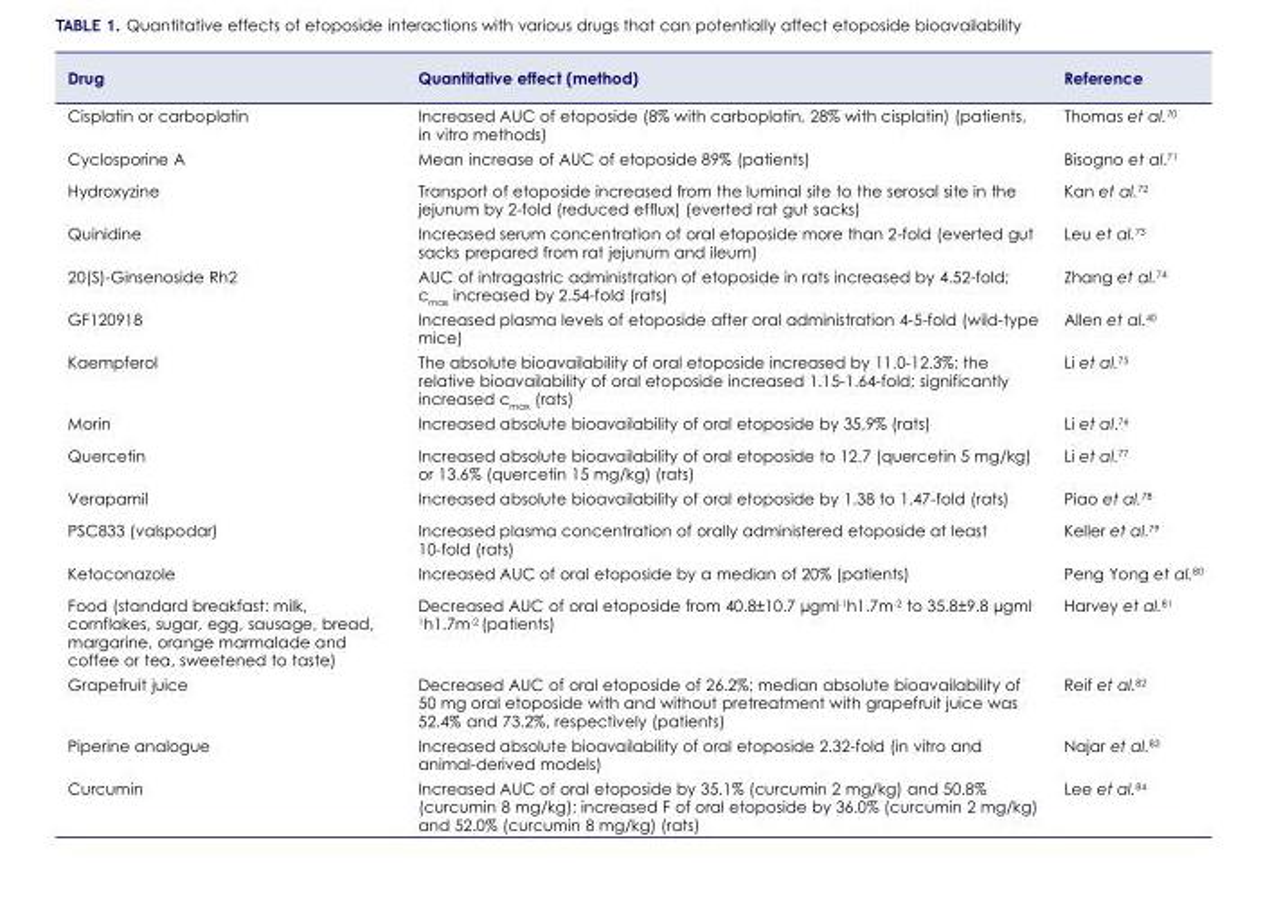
<table><thead><tr><td>Drug</td><td>Quantitative effect (method)</td><td>Reference</td></tr></thead><tbody><tr><td>Cisplatin or carboplatin</td><td>Increased AUC of etoposide (8% with carboplatin, 28% with cisplatin) (patients, in vitro methods)</td><td>Thomas et al.<sup>70</sup></td></tr><tr><td>Cyclosporine A</td><td>Mean increase of AUC of etoposide 89% (patients)</td><td>Bisogno et al.<sup>71</sup></td></tr><tr><td>Hydroxyzine</td><td>Transport of etoposide increased from the luminal site to the serosal site in the jejunum by 2-fold (reduced efflux) (everted rat gut sacks)</td><td>Kan et al.<sup>72</sup></td></tr><tr><td>Quinidine</td><td>Increased serum concentration of oral etoposide more than 2-fold (everted gut sacks prepared from rat jejunum and ileum)</td><td>Leu et al.<sup>73</sup></td></tr><tr><td>20(S)-Ginsenoside Rh2</td><td>AUC of intragastric administration of etoposide in rats increased by 4.52-fold; c<sub>max</sub> increased by 2.54-fold (rats)</td><td>Zhang et al.<sup>74</sup></td></tr><tr><td>GF120918</td><td>Increased plasma levels of etoposide after oral administration 4-5-fold (wild-type mice)</td><td>Allen et al.<sup>40</sup></td></tr><tr><td>Kaempferol</td><td>The absolute bioavailability of oral etoposide increased by 11.0-12.3%; the relative bioavailability of oral etoposide increased 1.15-1.64-fold; significantly increased c<sub>max</sub> (rats)</td><td>Li et al.<sup>75</sup></td></tr><tr><td>Morin</td><td>Increased absolute bioavailability of oral etoposide by 35,9% (rats)</td><td>Li et al.<sup>76</sup></td></tr><tr><td>Quercetin</td><td>Increased absolute bioavailability of oral etoposide to 12.7 (quercetin 5 mg/kg) or 13.6% (quercetin 15 mg/kg) (rats)</td><td>Li et al.<sup>77</sup></td></tr><tr><td>Verapamil</td><td>Increased absolute bioavailability of oral etoposide by 1.38 to 1.47-fold (rats)</td><td>Piao et al.<sup>78</sup></td></tr><tr><td>PSC833 (valspodar)</td><td>Increased plasma concentration of orally administered etoposide at least 10-fold (rats)</td><td>Keller et al.<sup>79</sup></td></tr><tr><td>Ketoconazole</td><td>Increased AUC of oral etoposide by a median of 20% (patients)</td><td>Peng Yong et al.<sup>80</sup></td></tr><tr><td>Food (standard breakfast: milk, cornflakes, sugar, egg, sausage, bread, margarine, orange marmalade and coffee or tea, sweetened to taste)</td><td>Decreased AUC of oral etoposide from 40.8±10.7 µgml<sup>-1</sup>h1.7m<sup>-2</sup> to 35.8±9.8 µgml<sup>- 1</sup>h1.7m<sup>-2</sup> (patients)</td><td>Harvey et al.<sup>81</sup></td></tr><tr><td>Grapefruit juice</td><td>Decreased AUC of oral etoposide of 26.2%; median absolute bioavailability of 50 mg oral etoposide with and without pretreatment with grapefruit juice was 52.4% and 73.2%, respectively (patients)</td><td>Reif et al.<sup>82</sup></td></tr><tr><td>Piperine analogue</td><td>Increased absolute bioavailability of oral etoposide 2.32-fold (in vitro and animal-derived models)</td><td>Najar et al.<sup>83</sup></td></tr><tr><td>Curcumin</td><td>Increased AUC of oral etoposide by 35.1% (curcumin 2 mg/kg) and 50.8% (curcumin 8 mg/kg); increased F of oral etoposide by 36.0% (curcumin 2 mg/kg) and 52.0% (curcumin 8 mg/kg) (rats)</td><td>Lee et al.<sup>84</sup></td></tr></tbody></table>